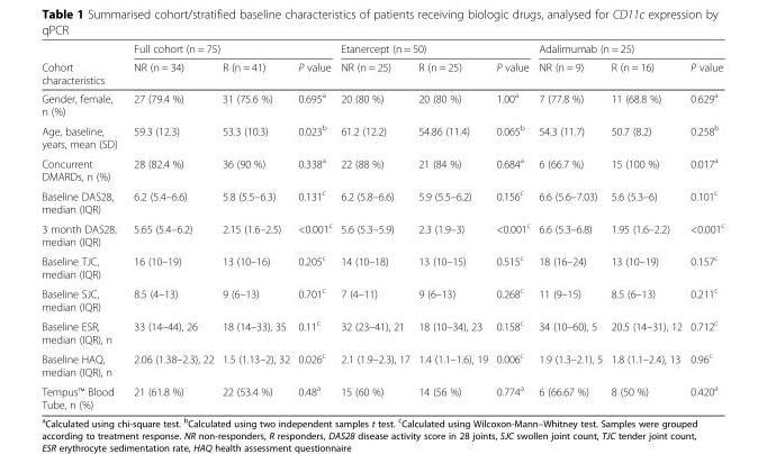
<table><thead><tr><td rowspan="2">Cohort characteristics</td><td colspan="3">Full cohort (n = 75)</td><td colspan="3">Etanercept (n = 50)</td><td colspan="3">Adalimumab (n = 25)</td></tr><tr><td>NR (n = 34)</td><td>R (n = 41)</td><td>P value</td><td>NR (n = 25)</td><td>R (n = 25)</td><td>P value</td><td>NR (n = 9)</td><td>R (n = 16)</td><td>P value</td></tr></thead><tbody><tr><td>Gender, female, n (%)</td><td>27 (79.4 %)</td><td>31 (75.6 %)</td><td>0.695<sup>a</sup></td><td>20 (80 %)</td><td>20 (80 %)</td><td>1.00<sup>a</sup></td><td>7 (77.8 %)</td><td>11 (68.8 %)</td><td>0.629<sup>a</sup></td></tr><tr><td>Age, baseline, years, mean (SD)</td><td>59.3 (12.3)</td><td>53.3 (10.3)</td><td>0.023<sup>b</sup></td><td>61.2 (12.2)</td><td>54.86 (11.4)</td><td>0.065<sup>b</sup></td><td>54.3 (11.7)</td><td>50.7 (8.2)</td><td>0.258<sup>b</sup></td></tr><tr><td>Concurrent DMARDs, n (%)</td><td>28 (82.4 %)</td><td>36 (90 %)</td><td>0.338<sup>a</sup></td><td>22 (88 %)</td><td>21 (84 %)</td><td>0.684<sup>a</sup></td><td>6 (66.7 %)</td><td>15 (100 %)</td><td>0.017<sup>a</sup></td></tr><tr><td>Baseline DAS28, median (IQR)</td><td>6.2 (5.4–6.6)</td><td>5.8 (5.5–6.3)</td><td>0.131<sup>c</sup></td><td>6.2 (5.8–6.6)</td><td>5.9 (5.5–6.2)</td><td>0.156<sup>c</sup></td><td>6.6 (5.6–7.03)</td><td>5.6 (5.3–6)</td><td>0.101<sup>c</sup></td></tr><tr><td>3 month DAS28, median (IQR)</td><td>5.65 (5.4–6.2)</td><td>2.15 (1.6–2.5)</td><td>&lt;0.001<sup>c</sup></td><td>5.6 (5.3–5.9)</td><td>2.3 (1.9–3)</td><td>&lt;0.001<sup>c</sup></td><td>6.6 (5.3–6.8)</td><td>1.95 (1.6–2.2)</td><td>&lt;0.001<sup>c</sup></td></tr><tr><td>Baseline TJC, median (IQR)</td><td>16 (10–19)</td><td>13 (10–16)</td><td>0.205<sup>c</sup></td><td>14 (10–18)</td><td>13 (10–15)</td><td>0.515<sup>c</sup></td><td>18 (16–24)</td><td>13 (10–19)</td><td>0.157<sup>c</sup></td></tr><tr><td>Baseline SJC, median (IQR)</td><td>8.5 (4–13)</td><td>9 (6–13)</td><td>0.701<sup>c</sup></td><td>7 (4–11)</td><td>9 (6–13)</td><td>0.268<sup>c</sup></td><td>11 (9–15)</td><td>8.5 (6–13)</td><td>0.211<sup>c</sup></td></tr><tr><td>Baseline ESR, median (IQR), n</td><td>33 (14–44), 26</td><td>18 (14–33), 35</td><td>0.11<sup>c</sup></td><td>32 (23–41), 21</td><td>18 (10–34), 23</td><td>0.158<sup>c</sup></td><td>34 (10–60), 5</td><td>20.5 (14–31), 12</td><td>0.712<sup>c</sup></td></tr><tr><td>Baseline HAQ, median (IQR), n</td><td>2.06 (1.38–2.3), 22</td><td>1.5 (1.13–2), 32</td><td>0.026<sup>c</sup></td><td>2.1 (1.9–2.3), 17</td><td>1.4 (1.1–1.6), 19</td><td>0.006<sup>c</sup></td><td>1.9 (1.3–2.1), 5</td><td>1.8 (1.1–2.4), 13</td><td>0.96<sup>c</sup></td></tr><tr><td>Tempus™ Blood Tube, n (%)</td><td>21 (61.8 %)</td><td>22 (53.4 %)</td><td>0.48<sup>a</sup></td><td>15 (60 %)</td><td>14 (56 %)</td><td>0.774<sup>a</sup></td><td>6 (66.67 %)</td><td>8 (50 %)</td><td>0.420<sup>a</sup></td></tr></tbody></table>